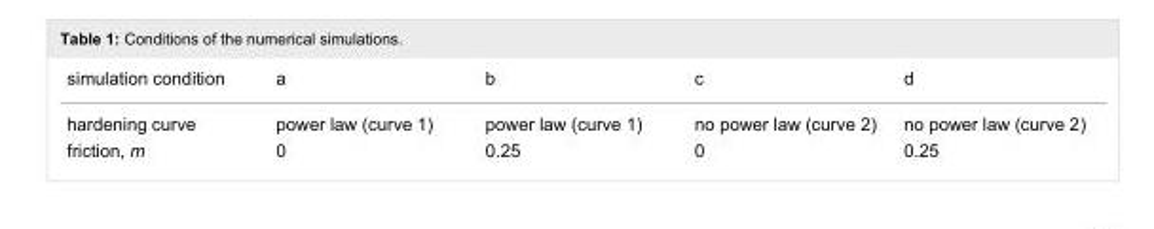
<table><tbody><tr><td>simulation condition</td><td>a</td><td>b</td><td>c</td><td>d</td></tr><tr><td>hardening curve</td><td>power law (curve 1)</td><td>power law (curve 1)</td><td>no power law (curve 2)</td><td>no power law (curve 2)</td></tr><tr><td>friction, m</td><td>0</td><td>0.25</td><td>0</td><td>0.25</td></tr></tbody></table>